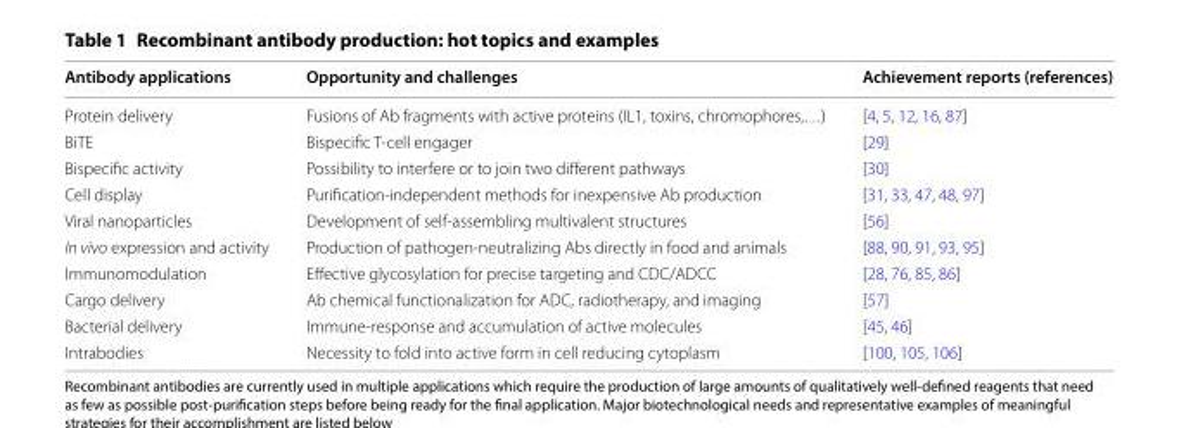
<table><thead><tr><td>Antibody applications</td><td>Opportunity and challenges</td><td>Achievement reports (references)</td></tr></thead><tbody><tr><td>Protein delivery</td><td>Fusions of Ab fragments with active proteins (IL1, toxins, chromophores,…)</td><td>[4, 5, 12, 16, 87]</td></tr><tr><td>BiTE</td><td>Bispecific T-cell engager</td><td>[29]</td></tr><tr><td>Bispecific activity</td><td>Possibility to interfere or to join two different pathways</td><td>[30]</td></tr><tr><td>Cell display</td><td>Purification-independent methods for inexpensive Ab production</td><td>[31, 33, 47, 48, 97]</td></tr><tr><td>Viral nanoparticles</td><td>Development of self-assembling multivalent structures</td><td>[56]</td></tr><tr><td>In vivo expression and activity</td><td>Production of pathogen-neutralizing Abs directly in food and animals</td><td>[88, 90, 91, 93, 95]</td></tr><tr><td>Immunomodulation</td><td>Effective glycosylation for precise targeting and CDC/ADCC</td><td>[28, 76, 85, 86]</td></tr><tr><td>Cargo delivery</td><td>Ab chemical functionalization for ADC, radiotherapy, and imaging</td><td>[57]</td></tr><tr><td>Bacterial delivery</td><td>Immune-response and accumulation of active molecules</td><td>[45, 46]</td></tr><tr><td>Intrabodies</td><td>Necessity to fold into active form in cell reducing cytoplasm</td><td>[100, 105, 106]</td></tr></tbody></table>